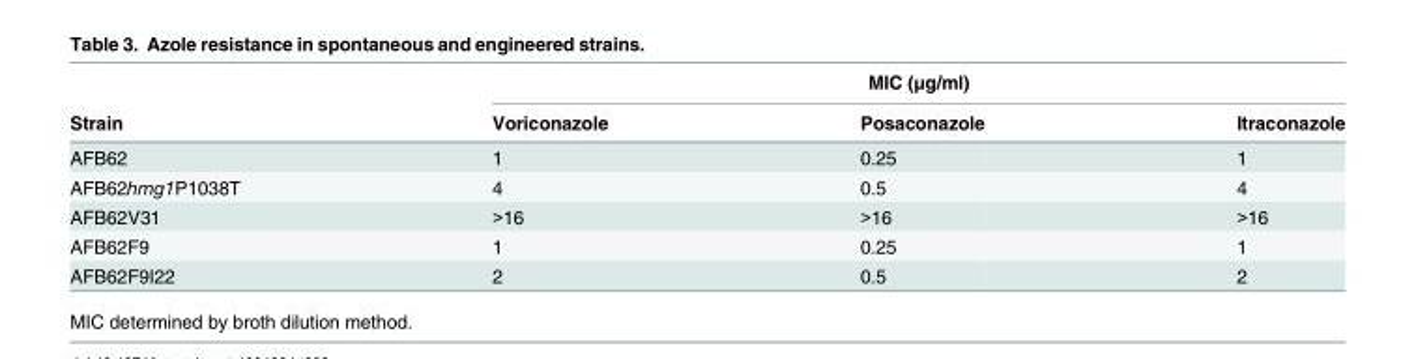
<table><thead><tr><td rowspan="2">Strain</td><td colspan="3">MIC (μg/ml)</td></tr><tr><td>Voriconazole</td><td>Posaconazole</td><td>Itraconazole</td></tr></thead><tbody><tr><td>AFB62</td><td>1</td><td>0.25</td><td>1</td></tr><tr><td>AFB62hmg1P1038T</td><td>4</td><td>0.5</td><td>4</td></tr><tr><td>AFB62V31</td><td>&gt;16</td><td>&gt;16</td><td>&gt;16</td></tr><tr><td>AFB62F9</td><td>1</td><td>0.25</td><td>1</td></tr><tr><td>AFB62F9I22</td><td>2</td><td>0.5</td><td>2</td></tr></tbody></table>